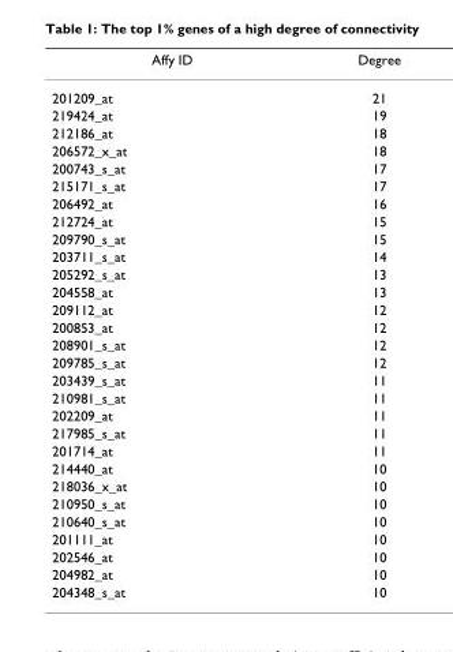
<table><thead><tr><td>Affy ID</td><td>Degree</td></tr></thead><tbody><tr><td>201209_at</td><td>21</td></tr><tr><td>219424_at</td><td>19</td></tr><tr><td>212186_at</td><td>18</td></tr><tr><td>206572_x_at</td><td>18</td></tr><tr><td>200743_s_at</td><td>17</td></tr><tr><td>215171_s_at</td><td>17</td></tr><tr><td>206492_at</td><td>16</td></tr><tr><td>212724_at</td><td>15</td></tr><tr><td>209790_s_at</td><td>15</td></tr><tr><td>203711_s_at</td><td>14</td></tr><tr><td>205292_s_at</td><td>13</td></tr><tr><td>204558_at</td><td>13</td></tr><tr><td>209112_at</td><td>12</td></tr><tr><td>200853_at</td><td>12</td></tr><tr><td>208901_s_at</td><td>12</td></tr><tr><td>209785_s_at</td><td>12</td></tr><tr><td>203439_s_at</td><td>11</td></tr><tr><td>210981_s_at</td><td>11</td></tr><tr><td>202209_at</td><td>11</td></tr><tr><td>217985_s_at</td><td>11</td></tr><tr><td>201714_at</td><td>11</td></tr><tr><td>214440_at</td><td>10</td></tr><tr><td>218036_x_at</td><td>10</td></tr><tr><td>210950_s_at</td><td>10</td></tr><tr><td>210640_s_at</td><td>10</td></tr><tr><td>201111_at</td><td>10</td></tr><tr><td>202546_at</td><td>10</td></tr><tr><td>204982_at</td><td>10</td></tr><tr><td>204348_s_at</td><td>10</td></tr></tbody></table>